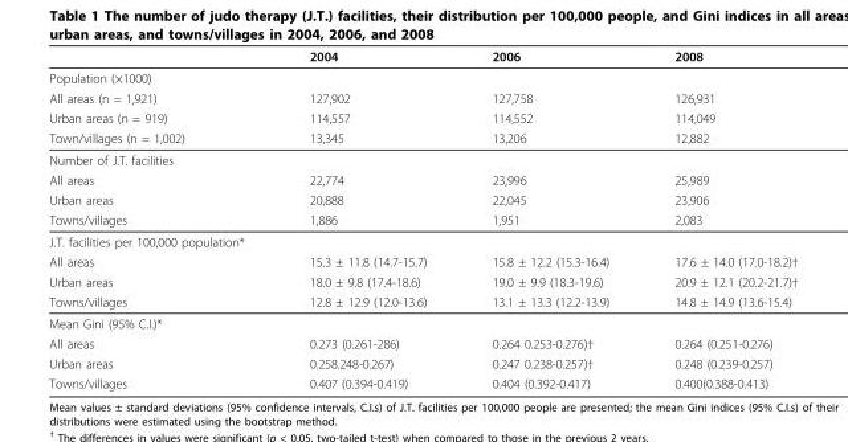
<table><thead><tr><td></td><td>2004</td><td>2006</td><td>2008</td></tr></thead><tbody><tr><td colspan="4">Population (×1000)</td></tr><tr><td>All areas (n = 1,921)</td><td>127,902</td><td>127,758</td><td>126,931</td></tr><tr><td>Urban areas (n = 919)</td><td>114,557</td><td>114,552</td><td>114,049</td></tr><tr><td>Town/villages (n = 1,002)</td><td>13,345</td><td>13,206</td><td>12,882</td></tr><tr><td colspan="4">Number of J.T. facilities</td></tr><tr><td>All areas</td><td>22,774</td><td>23,996</td><td>25,989</td></tr><tr><td>Urban areas</td><td>20,888</td><td>22,045</td><td>23,906</td></tr><tr><td>Towns/villages</td><td>1,886</td><td>1,951</td><td>2,083</td></tr><tr><td colspan="4">J.T. facilities per 100,000 population*</td></tr><tr><td>All areas</td><td>15.3 ± 11.8 (14.7-15.7)</td><td>15.8 ± 12.2 (15.3-16.4)</td><td>17.6 ± 14.0 (17.0-18.2)†</td></tr><tr><td>Urban areas</td><td>18.0 ± 9.8 (17.4-18.6)</td><td>19.0 ± 9.9 (18.3-19.6)</td><td>20.9 ± 12.1 (20.2-21.7)†</td></tr><tr><td>Towns/villages</td><td>12.8 ± 12.9 (12.0-13.6)</td><td>13.1 ± 13.3 (12.2-13.9)</td><td>14.8 ± 14.9 (13.6-15.4)</td></tr><tr><td colspan="4">Mean Gini (95% C.I.)*</td></tr><tr><td>All areas</td><td>0.273 (0.261-286)</td><td>0.264 0.253-0.276)†</td><td>0.264 (0.251-0.276)</td></tr><tr><td>Urban areas</td><td>0.258.248-0.267)</td><td>0.247 0.238-0.257)†</td><td>0.248 (0.239-0.257)</td></tr><tr><td>Towns/villages</td><td>0.407 (0.394-0.419)</td><td>0.404 (0.392-0.417)</td><td>0.400(0.388-0.413)</td></tr></tbody></table>